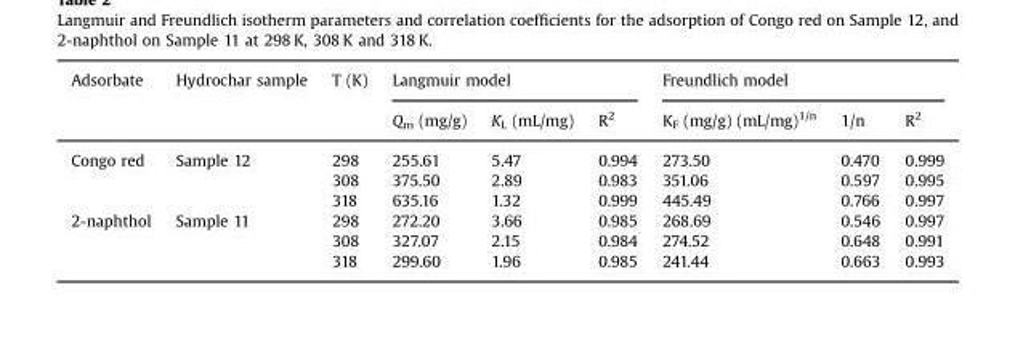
<table><thead><tr><td rowspan="2">Adsorbate</td><td rowspan="2">Hydrochar sample</td><td rowspan="2">T (K)</td><td colspan="3">Langmuir model</td><td colspan="3">Freundlich model</td></tr><tr><td>Q<sub>m</sub> (mg/g)</td><td>K<sub>L</sub> (mL/mg)</td><td>R<sup>2</sup></td><td>K<sub>F</sub> (mg/g) (mL/mg)<sup>1/n</sup></td><td>1/n</td><td>R<sup>2</sup></td></tr></thead><tbody><tr><td rowspan="3">Congo red</td><td>Sample 12</td><td>298</td><td>255.61</td><td>5.47</td><td>0.994</td><td>273.50</td><td>0.470</td><td>0.999</td></tr><tr><td></td><td>308</td><td>375.50</td><td>2.89</td><td>0.983</td><td>351.06</td><td>0.597</td><td>0.995</td></tr><tr><td></td><td>318</td><td>635.16</td><td>1.32</td><td>0.999</td><td>445.49</td><td>0.766</td><td>0.997</td></tr><tr><td rowspan="3">2-naphthol</td><td>Sample 11</td><td>298</td><td>272.20</td><td>3.66</td><td>0.985</td><td>268.69</td><td>0.546</td><td>0.997</td></tr><tr><td></td><td>308</td><td>327.07</td><td>2.15</td><td>0.984</td><td>274.52</td><td>0.648</td><td>0.991</td></tr><tr><td></td><td>318</td><td>299.60</td><td>1.96</td><td>0.985</td><td>241.44</td><td>0.663</td><td>0.993</td></tr></tbody></table>